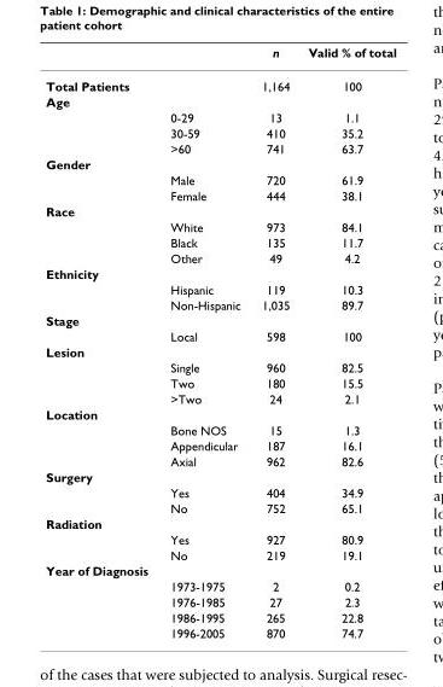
<table><thead><tr><td></td><td></td><td>n</td><td>Valid % of total</td></tr></thead><tbody><tr><td>Total Patients</td><td></td><td>1,164</td><td>100</td></tr><tr><td colspan="4">Age</td></tr><tr><td></td><td>0-29</td><td>13</td><td>1.1</td></tr><tr><td></td><td>30-59</td><td>410</td><td>35.2</td></tr><tr><td></td><td>&gt;60</td><td>741</td><td>63.7</td></tr><tr><td colspan="4">Gender</td></tr><tr><td></td><td>Male</td><td>720</td><td>61.9</td></tr><tr><td></td><td>Female</td><td>444</td><td>38.1</td></tr><tr><td colspan="4">Race</td></tr><tr><td></td><td>White</td><td>973</td><td>84.1</td></tr><tr><td></td><td>Black</td><td>135</td><td>11.7</td></tr><tr><td></td><td>Other</td><td>49</td><td>4.2</td></tr><tr><td colspan="4">Ethnicity</td></tr><tr><td></td><td>Hispanic</td><td>119</td><td>10.3</td></tr><tr><td></td><td>Non-Hispanic</td><td>1,035</td><td>89.7</td></tr><tr><td colspan="4">Stage</td></tr><tr><td></td><td>Local</td><td>598</td><td>100</td></tr><tr><td colspan="4">Lesion</td></tr><tr><td></td><td>Single</td><td>960</td><td>82.5</td></tr><tr><td></td><td>Two</td><td>180</td><td>15.5</td></tr><tr><td></td><td>&gt;Two</td><td>24</td><td>2.1</td></tr><tr><td colspan="4">Location</td></tr><tr><td></td><td>Bone NOS</td><td>15</td><td>1.3</td></tr><tr><td></td><td>Appendicular</td><td>187</td><td>16.1</td></tr><tr><td></td><td>Axial</td><td>962</td><td>82.6</td></tr><tr><td colspan="4">Surgery</td></tr><tr><td></td><td>Yes</td><td>404</td><td>34.9</td></tr><tr><td></td><td>No</td><td>752</td><td>65.1</td></tr><tr><td colspan="4">Radiation</td></tr><tr><td></td><td>Yes</td><td>927</td><td>80.9</td></tr><tr><td></td><td>No</td><td>219</td><td>19.1</td></tr><tr><td colspan="4">Year of Diagnosis</td></tr><tr><td></td><td>1973-1975</td><td>2</td><td>0.2</td></tr><tr><td></td><td>1976-1985</td><td>27</td><td>2.3</td></tr><tr><td></td><td>1986-1995</td><td>265</td><td>22.8</td></tr><tr><td></td><td>1996-2005</td><td>870</td><td>74.7</td></tr></tbody></table>